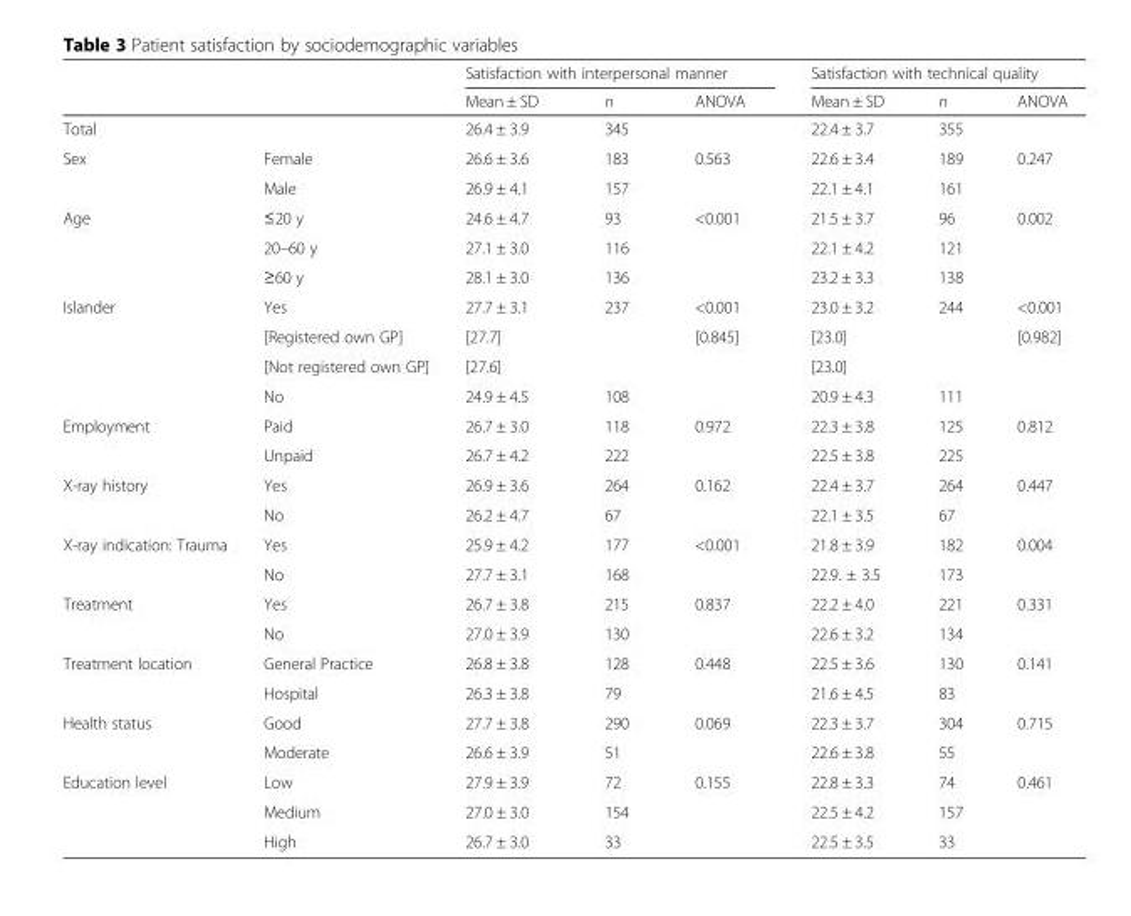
<table><thead><tr><td rowspan="2"></td><td rowspan="2"></td><td colspan="3">Satisfaction with interpersonal manner</td><td colspan="3">Satisfaction with technical quality</td></tr><tr><td>Mean ± SD</td><td>n</td><td>ANOVA</td><td>Mean ± SD</td><td>n</td><td>ANOVA</td></tr></thead><tbody><tr><td>Total</td><td></td><td>26.4 ± 3.9</td><td>345</td><td></td><td>22.4 ± 3.7</td><td>355</td><td></td></tr><tr><td rowspan="2">Sex</td><td>Female</td><td>26.6 ± 3.6</td><td>183</td><td>0.563</td><td>22.6 ± 3.4</td><td>189</td><td>0.247</td></tr><tr><td>Male</td><td>26.9 ± 4.1</td><td>157</td><td></td><td>22.1 ± 4.1</td><td>161</td><td></td></tr><tr><td rowspan="3">Age</td><td>≤20 y</td><td>24.6 ± 4.7</td><td>93</td><td>&lt;0.001</td><td>21.5 ± 3.7</td><td>96</td><td>0.002</td></tr><tr><td>20–60 y</td><td>27.1 ± 3.0</td><td>116</td><td></td><td>22.1 ± 4.2</td><td>121</td><td></td></tr><tr><td>≥60 y</td><td>28.1 ± 3.0</td><td>136</td><td></td><td>23.2 ± 3.3</td><td>138</td><td></td></tr><tr><td rowspan="4">Islander</td><td>Yes</td><td>27.7 ± 3.1</td><td>237</td><td>&lt;0.001</td><td>23.0 ± 3.2</td><td>244</td><td>&lt;0.001</td></tr><tr><td>[Registered own GP]</td><td>[27.7]</td><td></td><td>[0.845]</td><td>[23.0]</td><td></td><td>[0.982]</td></tr><tr><td>[Not registered own GP]</td><td>[27.6]</td><td></td><td></td><td>[23.0]</td><td></td><td></td></tr><tr><td>No</td><td>24.9 ± 4.5</td><td>108</td><td></td><td>20.9 ± 4.3</td><td>111</td><td></td></tr><tr><td rowspan="2">Employment</td><td>Paid</td><td>26.7 ± 3.0</td><td>118</td><td>0.972</td><td>22.3 ± 3.8</td><td>125</td><td>0.812</td></tr><tr><td>Unpaid</td><td>26.7 ± 4.2</td><td>222</td><td></td><td>22.5 ± 3.8</td><td>225</td><td></td></tr><tr><td rowspan="2">X-ray history</td><td>Yes</td><td>26.9 ± 3.6</td><td>264</td><td>0.162</td><td>22.4 ± 3.7</td><td>264</td><td>0.447</td></tr><tr><td>No</td><td>26.2 ± 4.7</td><td>67</td><td></td><td>22.1 ± 3.5</td><td>67</td><td></td></tr><tr><td rowspan="2">X-ray indication: Trauma</td><td>Yes</td><td>25.9 ± 4.2</td><td>177</td><td>&lt;0.001</td><td>21.8 ± 3.9</td><td>182</td><td>0.004</td></tr><tr><td>No</td><td>27.7 ± 3.1</td><td>168</td><td></td><td>22.9. ± 3.5</td><td>173</td><td></td></tr><tr><td rowspan="2">Treatment</td><td>Yes</td><td>26.7 ± 3.8</td><td>215</td><td>0.837</td><td>22.2 ± 4.0</td><td>221</td><td>0.331</td></tr><tr><td>No</td><td>27.0 ± 3.9</td><td>130</td><td></td><td>22.6 ± 3.2</td><td>134</td><td></td></tr><tr><td rowspan="2">Treatment location</td><td>General Practice</td><td>26.8 ± 3.8</td><td>128</td><td>0.448</td><td>22.5 ± 3.6</td><td>130</td><td>0.141</td></tr><tr><td>Hospital</td><td>26.3 ± 3.8</td><td>79</td><td></td><td>21.6 ± 4.5</td><td>83</td><td></td></tr><tr><td rowspan="2">Health status</td><td>Good</td><td>27.7 ± 3.8</td><td>290</td><td>0.069</td><td>22.3 ± 3.7</td><td>304</td><td>0.715</td></tr><tr><td>Moderate</td><td>26.6 ± 3.9</td><td>51</td><td></td><td>22.6 ± 3.8</td><td>55</td><td></td></tr><tr><td rowspan="3">Education level</td><td>Low</td><td>27.9 ± 3.9</td><td>72</td><td>0.155</td><td>22.8 ± 3.3</td><td>74</td><td>0.461</td></tr><tr><td>Medium</td><td>27.0 ± 3.0</td><td>154</td><td></td><td>22.5 ± 4.2</td><td>157</td><td></td></tr><tr><td>High</td><td>26.7 ± 3.0</td><td>33</td><td></td><td>22.5 ± 3.5</td><td>33</td><td></td></tr></tbody></table>